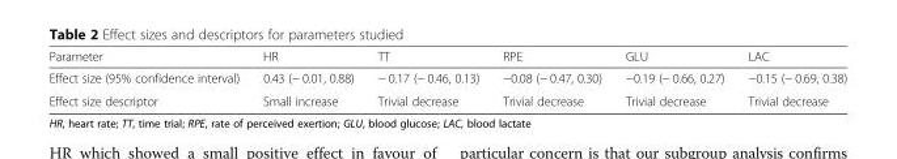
<table><thead><tr><td>Parameter</td><td>HR</td><td>TT</td><td>RPE</td><td>GLU</td><td>LAC</td></tr></thead><tbody><tr><td>Effect size (95% confidence interval)</td><td>0.43 (− 0.01, 0.88)</td><td>− 0.17 (− 0.46, 0.13)</td><td>−0.08 (− 0.47, 0.30)</td><td>−0.19 (− 0.66, 0.27)</td><td>−0.15 (− 0.69, 0.38)</td></tr><tr><td>Effect size descriptor</td><td>Small increase</td><td>Trivial decrease</td><td>Trivial decrease</td><td>Trivial decrease</td><td>Trivial decrease</td></tr></tbody></table>